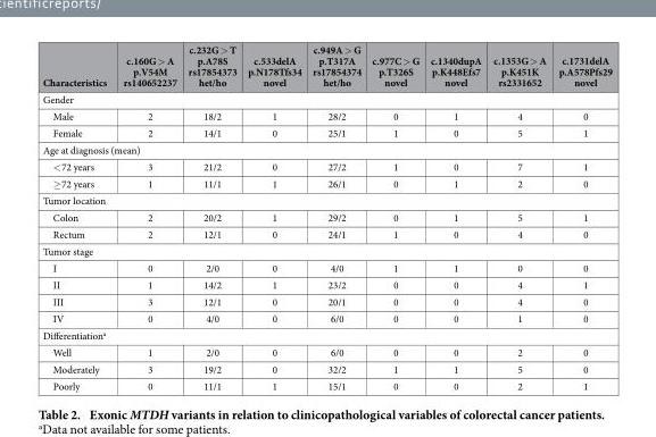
<table><thead><tr><td>Characteristics</td><td>c.160G &gt; A p.V54M rs140652237</td><td>c.232G &gt; T p.A78S rs17854373 het/ho</td><td>c.533delA p.N178Tfs34 novel</td><td>c.949A &gt; G p.T317A rs17854374 het/ho</td><td>c.977C &gt; G p.T326S novel</td><td>c.1340dupA p.K448Efs7 novel</td><td>c.1353G &gt; A p.K451K rs2331652</td><td>c.1731delA p.A578Pfs29 novel</td></tr></thead><tbody><tr><td colspan="9">Gender</td></tr><tr><td>Male</td><td>2</td><td>18/2</td><td>1</td><td>28/2</td><td>0</td><td>1</td><td>4</td><td>0</td></tr><tr><td>Female</td><td>2</td><td>14/1</td><td>0</td><td>25/1</td><td>1</td><td>0</td><td>5</td><td>1</td></tr><tr><td colspan="9">Age at diagnosis (mean)</td></tr><tr><td>&lt; 72 years</td><td>3</td><td>21/2</td><td>0</td><td>27/2</td><td>1</td><td>0</td><td>7</td><td>1</td></tr><tr><td>≥ 72 years</td><td>1</td><td>11/1</td><td>1</td><td>26/1</td><td>0</td><td>1</td><td>2</td><td>0</td></tr><tr><td colspan="9">Tumor location</td></tr><tr><td>Colon</td><td>2</td><td>20/2</td><td>1</td><td>29/2</td><td>0</td><td>1</td><td>5</td><td>1</td></tr><tr><td>Rectum</td><td>2</td><td>12/1</td><td>0</td><td>24/1</td><td>1</td><td>0</td><td>4</td><td>0</td></tr><tr><td colspan="9">Tumor stage</td></tr><tr><td>I</td><td>0</td><td>2/0</td><td>0</td><td>4/0</td><td>1</td><td>1</td><td>0</td><td>0</td></tr><tr><td>II</td><td>1</td><td>14/2</td><td>1</td><td>23/2</td><td>0</td><td>0</td><td>4</td><td>1</td></tr><tr><td>III</td><td>3</td><td>12/1</td><td>0</td><td>20/1</td><td>0</td><td>0</td><td>4</td><td>0</td></tr><tr><td>IV</td><td>0</td><td>4/0</td><td>0</td><td>6/0</td><td>0</td><td>0</td><td>1</td><td>0</td></tr><tr><td colspan="9">Differentiation<sup>a</sup></td></tr><tr><td>Well</td><td>1</td><td>2/0</td><td>0</td><td>6/0</td><td>0</td><td>0</td><td>2</td><td>0</td></tr><tr><td>Moderately</td><td>3</td><td>19/2</td><td>0</td><td>32/2</td><td>1</td><td>1</td><td>5</td><td>0</td></tr><tr><td>Poorly</td><td>0</td><td>11/1</td><td>1</td><td>15/1</td><td>0</td><td>0</td><td>2</td><td>1</td></tr></tbody></table>